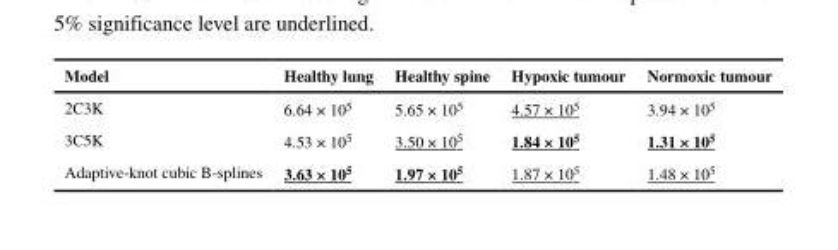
<table><thead><tr><td>Model</td><td>Healthy lung</td><td>Healthy spine</td><td>Hypoxic tumour</td><td>Normoxic tumour</td></tr></thead><tbody><tr><td>2C3K</td><td>6.64 × 10<sup>5</sup></td><td>5.65 × 10<sup>5</sup></td><td>4.57 × 10<sup>5</sup></td><td>3.94 × 10<sup>5</sup></td></tr><tr><td>3C5K</td><td>4.53 × 10<sup>5</sup></td><td>3.50 × 10<sup>5</sup></td><td>1.84 × 10<sup>5</sup></td><td>1.31 × 10<sup>5</sup></td></tr><tr><td>Adaptive-knot cubic B-splines</td><td>3.63 × 10<sup>5</sup></td><td>1.97 × 10<sup>5</sup></td><td>1.87 × 10<sup>5</sup></td><td>1.48 × 10<sup>5</sup></td></tr></tbody></table>